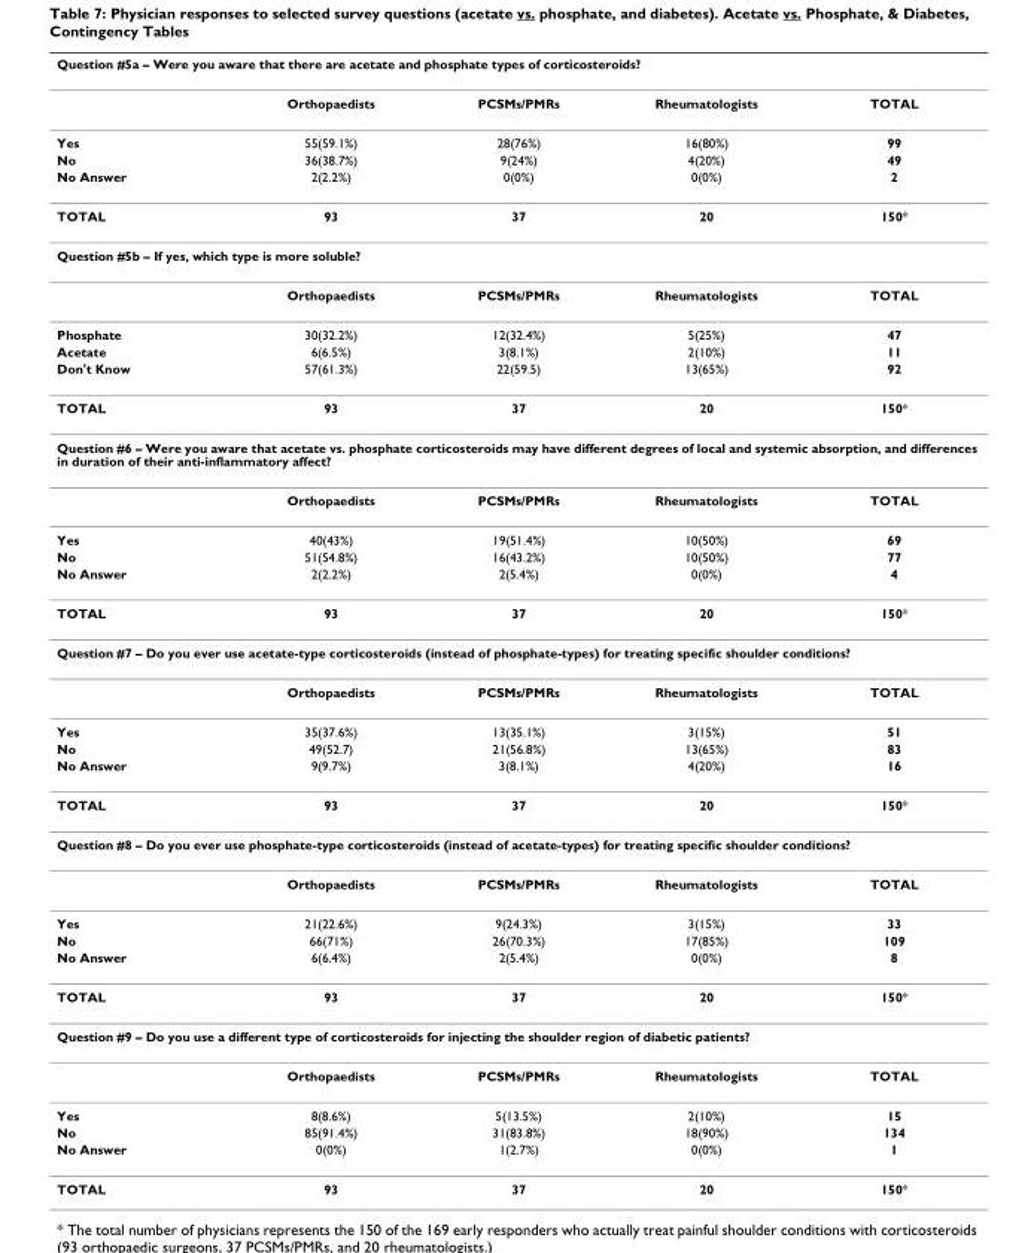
<table><thead><tr><td colspan="5">Question #5a – Were you aware that there are acetate and phosphate types of corticosteroids?</td></tr><tr><td></td><td>Orthopaedists</td><td>PCSMs/PMRs</td><td>Rheumatologists</td><td>TOTAL</td></tr></thead><tbody><tr><td>Yes</td><td>55(59.1%)</td><td>28(76%)</td><td>16(80%)</td><td>99</td></tr><tr><td>No</td><td>36(38.7%)</td><td>9(24%)</td><td>4(20%)</td><td>49</td></tr><tr><td>No Answer</td><td>2(2.2%)</td><td>0(0%)</td><td>0(0%)</td><td>2</td></tr><tr><td>TOTAL</td><td>93</td><td>37</td><td>20</td><td>150*</td></tr><tr><td colspan="5">Question #5b – If yes, which type is more soluble?</td></tr><tr><td></td><td>Orthopaedists</td><td>PCSMs/PMRs</td><td>Rheumatologists</td><td>TOTAL</td></tr><tr><td>Phosphate</td><td>30(32.2%)</td><td>12(32.4%)</td><td>5(25%)</td><td>47</td></tr><tr><td>Acetate</td><td>6(6.5%)</td><td>3(8.1%)</td><td>2(10%)</td><td>11</td></tr><tr><td>Don&#x27;t Know</td><td>57(61.3%)</td><td>22(59.5)</td><td>13(65%)</td><td>92</td></tr><tr><td>TOTAL</td><td>93</td><td>37</td><td>20</td><td>150*</td></tr><tr><td colspan="5">Question #6 – Were you aware that acetate vs. phosphate corticosteroids may have different degrees of local and systemic absorption, and differences in duration of their anti-inflammatory affect?</td></tr><tr><td></td><td>Orthopaedists</td><td>PCSMs/PMRs</td><td>Rheumatologists</td><td>TOTAL</td></tr><tr><td>Yes</td><td>40(43%)</td><td>19(51.4%)</td><td>10(50%)</td><td>69</td></tr><tr><td>No</td><td>51(54.8%)</td><td>16(43.2%)</td><td>10(50%)</td><td>77</td></tr><tr><td>No Answer</td><td>2(2.2%)</td><td>2(5.4%)</td><td>0(0%)</td><td>4</td></tr><tr><td>TOTAL</td><td>93</td><td>37</td><td>20</td><td>150*</td></tr><tr><td colspan="5">Question #7 – Do you ever use acetate-type corticosteroids (instead of phosphate-types) for treating specific shoulder conditions?</td></tr><tr><td></td><td>Orthopaedists</td><td>PCSMs/PMRs</td><td>Rheumatologists</td><td>TOTAL</td></tr><tr><td>Yes</td><td>35(37.6%)</td><td>13(35.1%)</td><td>3(15%)</td><td>51</td></tr><tr><td>No</td><td>49(52.7)</td><td>21(56.8%)</td><td>13(65%)</td><td>83</td></tr><tr><td>No Answer</td><td>9(9.7%)</td><td>3(8.1%)</td><td>4(20%)</td><td>16</td></tr><tr><td>TOTAL</td><td>93</td><td>37</td><td>20</td><td>150*</td></tr><tr><td colspan="5">Question #8 – Do you ever use phosphate-type corticosteroids (instead of acetate-types) for treating specific shoulder conditions?</td></tr><tr><td></td><td>Orthopaedists</td><td>PCSMs/PMRs</td><td>Rheumatologists</td><td>TOTAL</td></tr><tr><td>Yes</td><td>21(22.6%)</td><td>9(24.3%)</td><td>3(15%)</td><td>33</td></tr><tr><td>No</td><td>66(71%)</td><td>26(70.3%)</td><td>17(85%)</td><td>109</td></tr><tr><td>No Answer</td><td>6(6.4%)</td><td>2(5.4%)</td><td>0(0%)</td><td>8</td></tr><tr><td>TOTAL</td><td>93</td><td>37</td><td>20</td><td>150*</td></tr><tr><td colspan="5">Question #9 – Do you use a different type of corticosteroids for injecting the shoulder region of diabetic patients?</td></tr><tr><td></td><td>Orthopaedists</td><td>PCSMs/PMRs</td><td>Rheumatologists</td><td>TOTAL</td></tr><tr><td>Yes</td><td>8(8.6%)</td><td>5(13.5%)</td><td>2(10%)</td><td>15</td></tr><tr><td>No</td><td>85(91.4%)</td><td>31(83.8%)</td><td>18(90%)</td><td>134</td></tr><tr><td>No Answer</td><td>0(0%)</td><td>1(2.7%)</td><td>0(0%)</td><td>1</td></tr><tr><td>TOTAL</td><td>93</td><td>37</td><td>20</td><td>150*</td></tr></tbody></table>